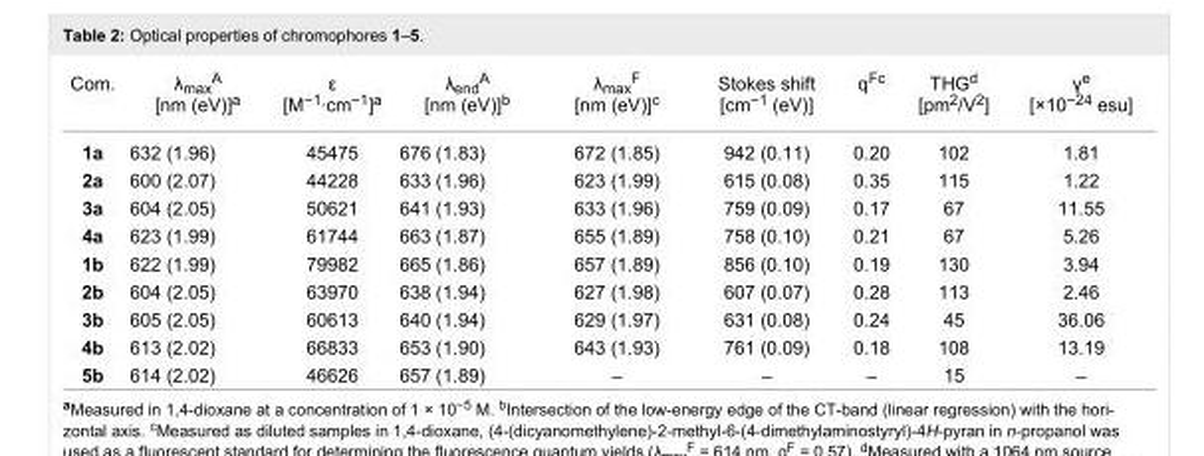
<table><tbody><tr><td>Com.</td><td>λ<sub>max</sub><sup>A</sup> [nm (eV)]<sup>a</sup></td><td>ε [M<sup>−1</sup>·cm<sup>−1</sup>]<sup>a</sup></td><td>λ<sub>end</sub><sup>A</sup> [nm (eV)]<sup>b</sup></td><td>λ<sub>max</sub><sup>F</sup> [nm (eV)]<sup>c</sup></td><td>Stokes shift [cm<sup>−1</sup> (eV)]</td><td>q<sup>Fc</sup></td><td>THG<sup>d</sup> [pm<sup>2</sup>/V<sup>2</sup>]</td><td>γ<sup>e</sup> [×10<sup>−24</sup> esu]</td></tr><tr><td>1a</td><td>632 (1.96)</td><td>45475</td><td>676 (1.83)</td><td>672 (1.85)</td><td>942 (0.11)</td><td>0.20</td><td>102</td><td>1.81</td></tr><tr><td>2a</td><td>600 (2.07)</td><td>44228</td><td>633 (1.96)</td><td>623 (1.99)</td><td>615 (0.08)</td><td>0.35</td><td>115</td><td>1.22</td></tr><tr><td>3a</td><td>604 (2.05)</td><td>50621</td><td>641 (1.93)</td><td>633 (1.96)</td><td>759 (0.09)</td><td>0.17</td><td>67</td><td>11.55</td></tr><tr><td>4a</td><td>623 (1.99)</td><td>61744</td><td>663 (1.87)</td><td>655 (1.89)</td><td>758 (0.10)</td><td>0.21</td><td>67</td><td>5.26</td></tr><tr><td>1b</td><td>622 (1.99)</td><td>79982</td><td>665 (1.86)</td><td>657 (1.89)</td><td>856 (0.10)</td><td>0.19</td><td>130</td><td>3.94</td></tr><tr><td>2b</td><td>604 (2.05)</td><td>63970</td><td>638 (1.94)</td><td>627 (1.98)</td><td>607 (0.07)</td><td>0.28</td><td>113</td><td>2.46</td></tr><tr><td>3b</td><td>605 (2.05)</td><td>60613</td><td>640 (1.94)</td><td>629 (1.97)</td><td>631 (0.08)</td><td>0.24</td><td>45</td><td>36.06</td></tr><tr><td>4b</td><td>613 (2.02)</td><td>66833</td><td>653 (1.90)</td><td>643 (1.93)</td><td>761 (0.09)</td><td>0.18</td><td>108</td><td>13.19</td></tr><tr><td>5b</td><td>614 (2.02)</td><td>46626</td><td>657 (1.89)</td><td>–</td><td>–</td><td>–</td><td>15</td><td>–</td></tr></tbody></table>